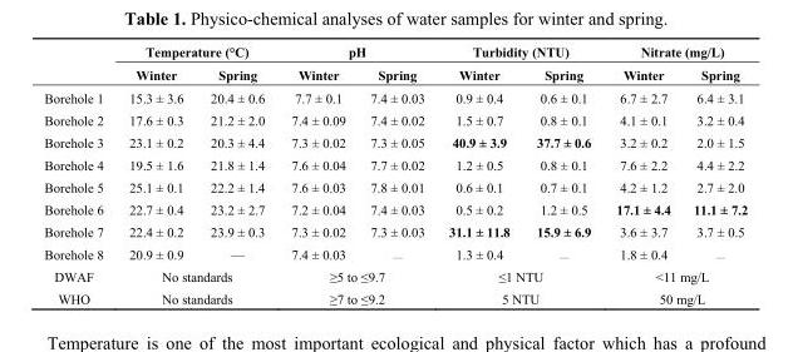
<table><thead><tr><td rowspan="2"></td><td colspan="2">Temperature (°C)</td><td colspan="2">pH</td><td colspan="2">Turbidity (NTU)</td><td colspan="2">Nitrate (mg/L)</td></tr><tr><td>Winter</td><td>Spring</td><td>Winter</td><td>Spring</td><td>Winter</td><td>Spring</td><td>Winter</td><td>Spring</td></tr></thead><tbody><tr><td>Borehole 1</td><td>15.3 ± 3.6</td><td>20.4 ± 0.6</td><td>7.7 ± 0.1</td><td>7.4 ± 0.03</td><td>0.9 ± 0.4</td><td>0.6 ± 0.1</td><td>6.7 ± 2.7</td><td>6.4 ± 3.1</td></tr><tr><td>Borehole 2</td><td>17.6 ± 0.3</td><td>21.2 ± 2.0</td><td>7.4 ± 0.09</td><td>7.4 ± 0.02</td><td>1.5 ± 0.7</td><td>0.8 ± 0.1</td><td>4.1 ± 0.1</td><td>3.2 ± 0.4</td></tr><tr><td>Borehole 3</td><td>23.1 ± 0.2</td><td>20.3 ± 4.4</td><td>7.3 ± 0.02</td><td>7.3 ± 0.05</td><td>40.9 ± 3.9</td><td>37.7 ± 0.6</td><td>3.2 ± 0.2</td><td>2.0 ± 1.5</td></tr><tr><td>Borehole 4</td><td>19.5 ± 1.6</td><td>21.8 ± 1.4</td><td>7.6 ± 0.04</td><td>7.7 ± 0.02</td><td>1.2 ± 0.5</td><td>0.8 ± 0.1</td><td>7.6 ± 2.2</td><td>4.4 ± 2.2</td></tr><tr><td>Borehole 5</td><td>25.1 ± 0.1</td><td>22.2 ± 1.4</td><td>7.6 ± 0.03</td><td>7.8 ± 0.01</td><td>0.6 ± 0.1</td><td>0.7 ± 0.1</td><td>4.2 ± 1.2</td><td>2.7 ± 2.0</td></tr><tr><td>Borehole 6</td><td>22.7 ± 0.4</td><td>23.2 ± 2.7</td><td>7.2 ± 0.04</td><td>7.4 ± 0.03</td><td>0.5 ± 0.2</td><td>1.2 ± 0.5</td><td>17.1 ± 4.4</td><td>11.1 ± 7.2</td></tr><tr><td>Borehole 7</td><td>22.4 ± 0.2</td><td>23.9 ± 0.3</td><td>7.3 ± 0.02</td><td>7.3 ± 0.03</td><td>31.1 ± 11.8</td><td>15.9 ± 6.9</td><td>3.6 ± 3.7</td><td>3.7 ± 0.5</td></tr><tr><td>Borehole 8</td><td>20.9 ± 0.9</td><td>—</td><td>7.4 ± 0.03</td><td><sub>—</sub></td><td>1.3 ± 0.4</td><td><sub>—</sub></td><td>1.8 ± 0.4</td><td><sub>—</sub></td></tr><tr><td>DWAF</td><td colspan="2">No standards</td><td colspan="2">≥5 to ≤9.7</td><td colspan="2">≤1 NTU</td><td colspan="2">&lt;11 mg/L</td></tr><tr><td>WHO</td><td colspan="2">No standards</td><td colspan="2">≥7 to ≤9.2</td><td colspan="2">5 NTU</td><td colspan="2">50 mg/L</td></tr></tbody></table>